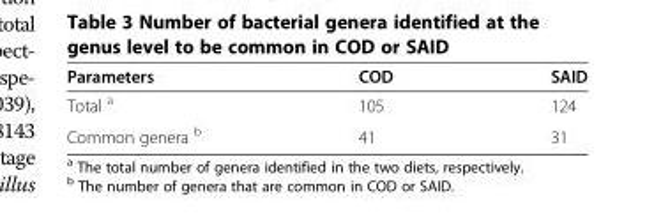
<table><thead><tr><td>Parameters</td><td>COD</td><td>SAID</td></tr></thead><tbody><tr><td>Total <sup>a</sup></td><td>105</td><td>124</td></tr><tr><td>Common genera <sup>b</sup></td><td>41</td><td>31</td></tr></tbody></table>